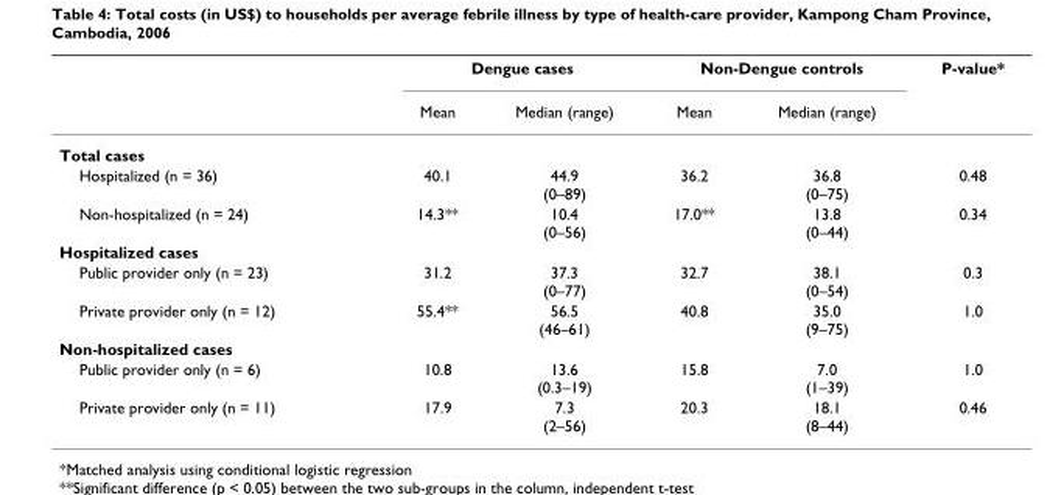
<table><thead><tr><td rowspan="2"></td><td colspan="2">Dengue cases</td><td colspan="2">Non-Dengue controls</td><td rowspan="2">P-value*</td></tr><tr><td>Mean</td><td>Median (range)</td><td>Mean</td><td>Median (range)</td></tr></thead><tbody><tr><td colspan="6">Total cases</td></tr><tr><td>Hospitalized (n = 36)</td><td>40.1</td><td>44.9 (0–89)</td><td>36.2</td><td>36.8 (0–75)</td><td>0.48</td></tr><tr><td>Non-hospitalized (n = 24)</td><td>14.3**</td><td>10.4 (0–56)</td><td>17.0**</td><td>13.8 (0–44)</td><td>0.34</td></tr><tr><td colspan="6">Hospitalized cases</td></tr><tr><td>Public provider only (n = 23)</td><td>31.2</td><td>37.3 (0–77)</td><td>32.7</td><td>38.1 (0–54)</td><td>0.3</td></tr><tr><td>Private provider only (n = 12)</td><td>55.4**</td><td>56.5 (46–61)</td><td>40.8</td><td>35.0 (9–75)</td><td>1.0</td></tr><tr><td colspan="6">Non-hospitalized cases</td></tr><tr><td>Public provider only (n = 6)</td><td>10.8</td><td>13.6 (0.3–19)</td><td>15.8</td><td>7.0 (1–39)</td><td>1.0</td></tr><tr><td>Private provider only (n = 11)</td><td>17.9</td><td>7.3 (2–56)</td><td>20.3</td><td>18.1 (8–44)</td><td>0.46</td></tr></tbody></table>